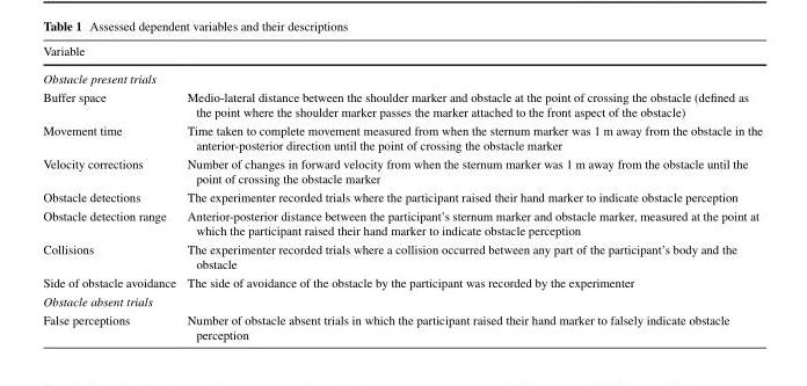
<table><thead><tr><td rowspan="2" colspan="2">Variable Obstacle present trials</td></tr><tr></tr><tr><td>Buffer space</td><td>Medio-lateral distance between the shoulder marker and obstacle at the point of crossing the obstacle (defined as the point where the shoulder marker passes the marker attached to the front aspect of the obstacle)</td></tr></thead><tbody><tr><td>Movement time</td><td>Time taken to complete movement measured from when the sternum marker was 1 m away from the obstacle in the anterior-posterior direction until the point of crossing the obstacle marker</td></tr><tr><td>Velocity corrections</td><td>Number of changes in forward velocity from when the sternum marker was 1 m away from the obstacle until the point of crossing the obstacle marker</td></tr><tr><td>Obstacle detections</td><td>The experimenter recorded trials where the participant raised their hand marker to indicate obstacle perception</td></tr><tr><td>Obstacle detection range</td><td>Anterior-posterior distance between the participant’s sternum marker and obstacle marker, measured at the point at which the participant raised their hand marker to indicate obstacle perception</td></tr><tr><td>Collisions</td><td>The experimenter recorded trials where a collision occurred between any part of the participant’s body and the obstacle</td></tr><tr><td>Side of obstacle avoidance</td><td>The side of avoidance of the obstacle by the participant was recorded by the experimenter</td></tr><tr><td colspan="2">Obstacle absent trials</td></tr><tr><td>False perceptions</td><td>Number of obstacle absent trials in which the participant raised their hand marker to falsely indicate obstacle perception</td></tr></tbody></table>